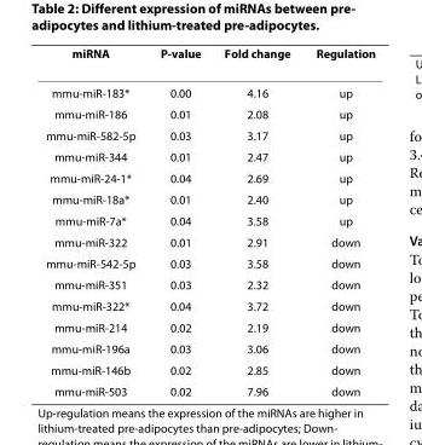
<table><thead><tr><td>miRNA</td><td>P-value</td><td>Fold change</td><td>Regulation</td></tr></thead><tbody><tr><td>mmu-miR-183*</td><td>0.00</td><td>4.16</td><td>up</td></tr><tr><td>mmu-miR-186</td><td>0.01</td><td>2.08</td><td>up</td></tr><tr><td>mmu-miR-582-5p</td><td>0.03</td><td>3.17</td><td>up</td></tr><tr><td>mmu-miR-344</td><td>0.01</td><td>2.47</td><td>up</td></tr><tr><td>mmu-miR-24-1*</td><td>0.04</td><td>2.69</td><td>up</td></tr><tr><td>mmu-miR-18a*</td><td>0.01</td><td>2.40</td><td>up</td></tr><tr><td>mmu-miR-7a*</td><td>0.04</td><td>3.58</td><td>up</td></tr><tr><td>mmu-miR-322</td><td>0.01</td><td>2.91</td><td>down</td></tr><tr><td>mmu-miR-542-5p</td><td>0.03</td><td>3.58</td><td>down</td></tr><tr><td>mmu-miR-351</td><td>0.03</td><td>2.32</td><td>down</td></tr><tr><td>mmu-miR-322*</td><td>0.04</td><td>3.72</td><td>down</td></tr><tr><td>mmu-miR-214</td><td>0.02</td><td>2.19</td><td>down</td></tr><tr><td>mmu-miR-196a</td><td>0.03</td><td>3.06</td><td>down</td></tr><tr><td>mmu-miR-146b</td><td>0.02</td><td>2.85</td><td>down</td></tr><tr><td>mmu-miR-503</td><td>0.02</td><td>7.96</td><td>down</td></tr></tbody></table>